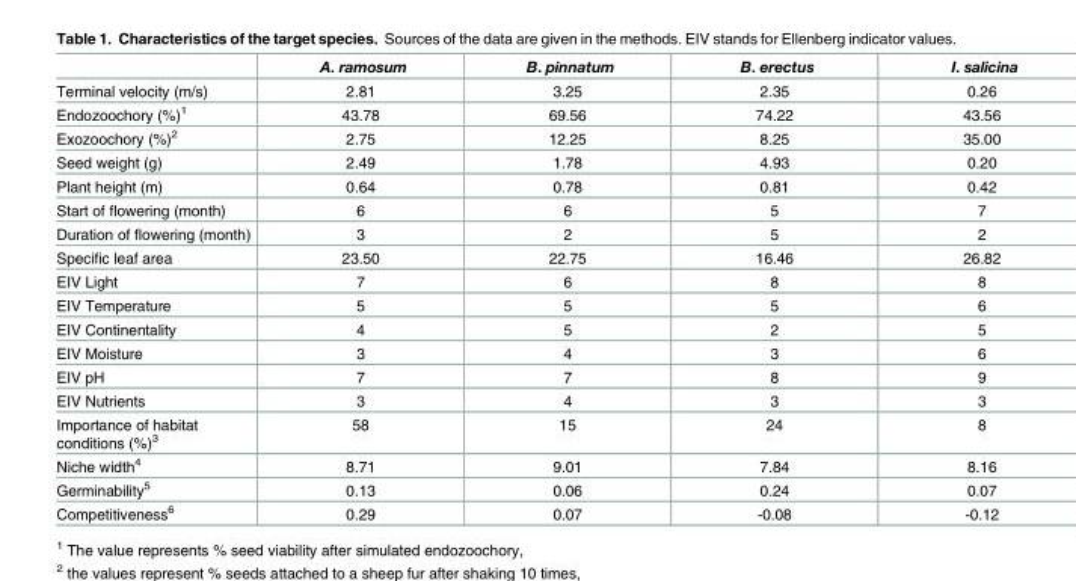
<table><thead><tr><td></td><td>A. ramosum</td><td>B. pinnatum</td><td>B. erectus</td><td>I. salicina</td></tr></thead><tbody><tr><td>Terminal velocity (m/s)</td><td>2.81</td><td>3.25</td><td>2.35</td><td>0.26</td></tr><tr><td>Endozoochory (%)<sup>1</sup></td><td>43.78</td><td>69.56</td><td>74.22</td><td>43.56</td></tr><tr><td>Exozoochory (%)<sup>2</sup></td><td>2.75</td><td>12.25</td><td>8.25</td><td>35.00</td></tr><tr><td>Seed weight (g)</td><td>2.49</td><td>1.78</td><td>4.93</td><td>0.20</td></tr><tr><td>Plant height (m)</td><td>0.64</td><td>0.78</td><td>0.81</td><td>0.42</td></tr><tr><td>Start of flowering (month)</td><td>6</td><td>6</td><td>5</td><td>7</td></tr><tr><td>Duration of flowering (month)</td><td>3</td><td>2</td><td>5</td><td>2</td></tr><tr><td>Specific leaf area</td><td>23.50</td><td>22.75</td><td>16.46</td><td>26.82</td></tr><tr><td>EIV Light</td><td>7</td><td>6</td><td>8</td><td>8</td></tr><tr><td>EIV Temperature</td><td>5</td><td>5</td><td>5</td><td>6</td></tr><tr><td>EIV Continentality</td><td>4</td><td>5</td><td>2</td><td>5</td></tr><tr><td>EIV Moisture</td><td>3</td><td>4</td><td>3</td><td>6</td></tr><tr><td>EIV pH</td><td>7</td><td>7</td><td>8</td><td>9</td></tr><tr><td>EIV Nutrients</td><td>3</td><td>4</td><td>3</td><td>3</td></tr><tr><td>Importance of habitat conditions (%)<sup>3</sup></td><td>58</td><td>15</td><td>24</td><td>8</td></tr><tr><td>Niche width<sup>4</sup></td><td>8.71</td><td>9.01</td><td>7.84</td><td>8.16</td></tr><tr><td>Germinability<sup>5</sup></td><td>0.13</td><td>0.06</td><td>0.24</td><td>0.07</td></tr><tr><td>Competitiveness<sup>6</sup></td><td>0.29</td><td>0.07</td><td>-0.08</td><td>-0.12</td></tr></tbody></table>